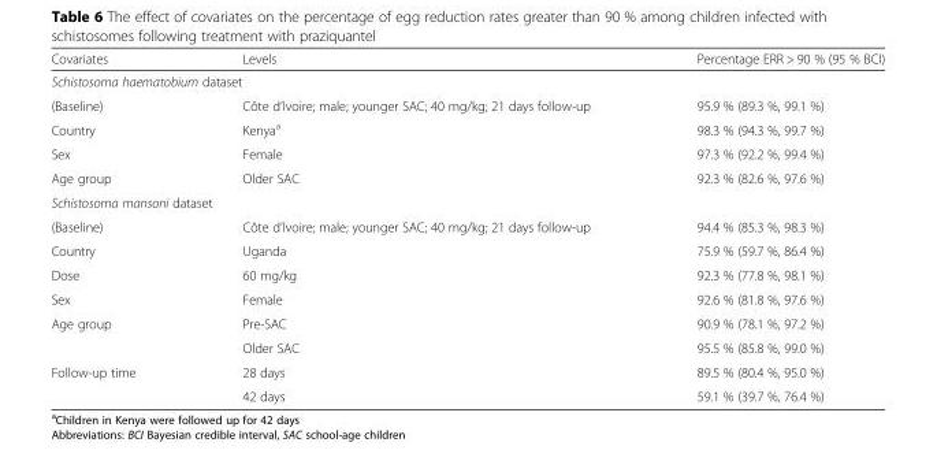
<table><thead><tr><td>Covariates</td><td>Levels</td><td>Percentage ERR &gt; 90 % (95 % BCI)</td></tr></thead><tbody><tr><td colspan="3">Schistosoma haematobium dataset</td></tr><tr><td>(Baseline)</td><td>Côte d’Ivoire; male; younger SAC; 40 mg/kg; 21 days follow-up</td><td>95.9 % (89.3 %, 99.1 %)</td></tr><tr><td>Country</td><td>Kenya<sup>a</sup></td><td>98.3 % (94.3 %, 99.7 %)</td></tr><tr><td>Sex</td><td>Female</td><td>97.3 % (92.2 %, 99.4 %)</td></tr><tr><td>Age group</td><td>Older SAC</td><td>92.3 % (82.6 %, 97.6 %)</td></tr><tr><td colspan="3">Schistosoma mansoni dataset</td></tr><tr><td>(Baseline)</td><td>Côte d’Ivoire; male; younger SAC; 40 mg/kg; 21 days follow-up</td><td>94.4 % (85.3 %, 98.3 %)</td></tr><tr><td>Country</td><td>Uganda</td><td>75.9 % (59.7 %, 86.4 %)</td></tr><tr><td>Dose</td><td>60 mg/kg</td><td>92.3 % (77.8 %, 98.1 %)</td></tr><tr><td>Sex</td><td>Female</td><td>92.6 % (81.8 %, 97.6 %)</td></tr><tr><td rowspan="2">Age group</td><td>Pre-SAC</td><td>90.9 % (78.1 %, 97.2 %)</td></tr><tr><td>Older SAC</td><td>95.5 % (85.8 %, 99.0 %)</td></tr><tr><td rowspan="2">Follow-up time</td><td>28 days</td><td>89.5 % (80.4 %, 95.0 %)</td></tr><tr><td>42 days</td><td>59.1 % (39.7 %, 76.4 %)</td></tr></tbody></table>